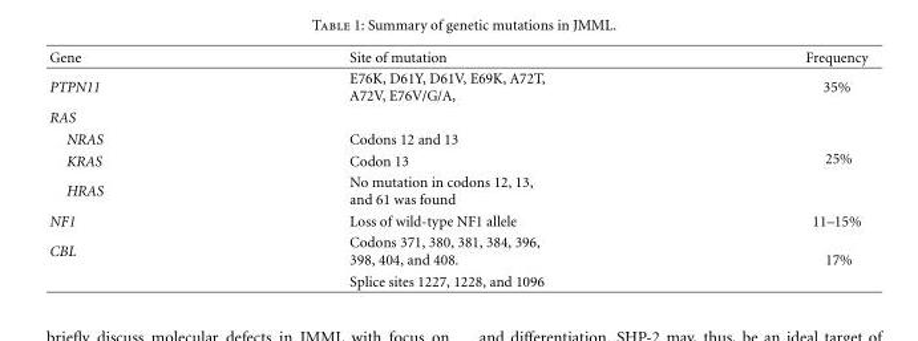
<table><thead><tr><td>Gene</td><td>Site of mutation</td><td>Frequency</td></tr></thead><tbody><tr><td>PTPN11</td><td>E76K, D61Y, D61V, E69K, A72T, A72V, E76V/G/A,</td><td>35%</td></tr><tr><td colspan="3">RAS</td></tr><tr><td>NRAS</td><td>Codons 12 and 13</td><td rowspan="3">25%</td></tr><tr><td>KRAS</td><td>Codon 13</td></tr><tr><td>HRAS</td><td>No mutation in codons 12, 13, and 61 was found</td></tr><tr><td>NF1</td><td>Loss of wild-type NF1 allele</td><td>11–15%</td></tr><tr><td rowspan="2">CBL</td><td>Codons 371, 380, 381, 384, 396, 398, 404, and 408.</td><td rowspan="2">17%</td></tr><tr><td>Splice sites 1227, 1228, and 1096</td></tr></tbody></table>